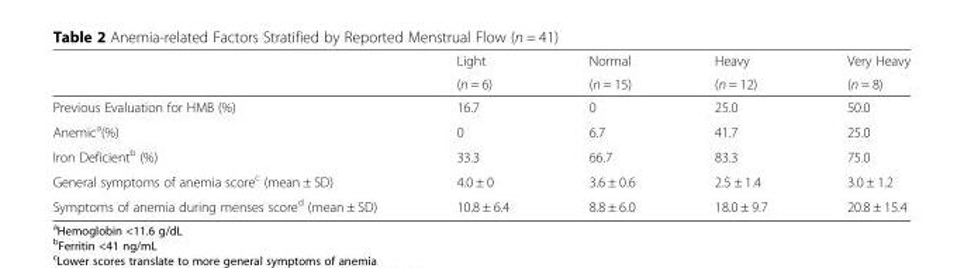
<table><thead><tr><td rowspan="2"></td><td rowspan="2">Light (n = 6)</td><td rowspan="2">Normal (n = 15)</td><td rowspan="2">Heavy (n = 12)</td><td rowspan="2">Very Heavy (n = 8)</td></tr><tr></tr></thead><tbody><tr><td>Previous Evaluation for HMB (%)</td><td>16.7</td><td>0</td><td>25.0</td><td>50.0</td></tr><tr><td>Anemic<sup>a</sup>(%)</td><td>0</td><td>6.7</td><td>41.7</td><td>25.0</td></tr><tr><td>Iron Deficient<sup>b</sup> (%)</td><td>33.3</td><td>66.7</td><td>83.3</td><td>75.0</td></tr><tr><td>General symptoms of anemia score<sup>c</sup> (mean ± SD)</td><td>4.0 ± 0</td><td>3.6 ± 0.6</td><td>2.5 ± 1.4</td><td>3.0 ± 1.2</td></tr><tr><td>Symptoms of anemia during menses score<sup>d</sup> (mean ± SD)</td><td>10.8 ± 6.4</td><td>8.8 ± 6.0</td><td>18.0 ± 9.7</td><td>20.8 ± 15.4</td></tr></tbody></table>